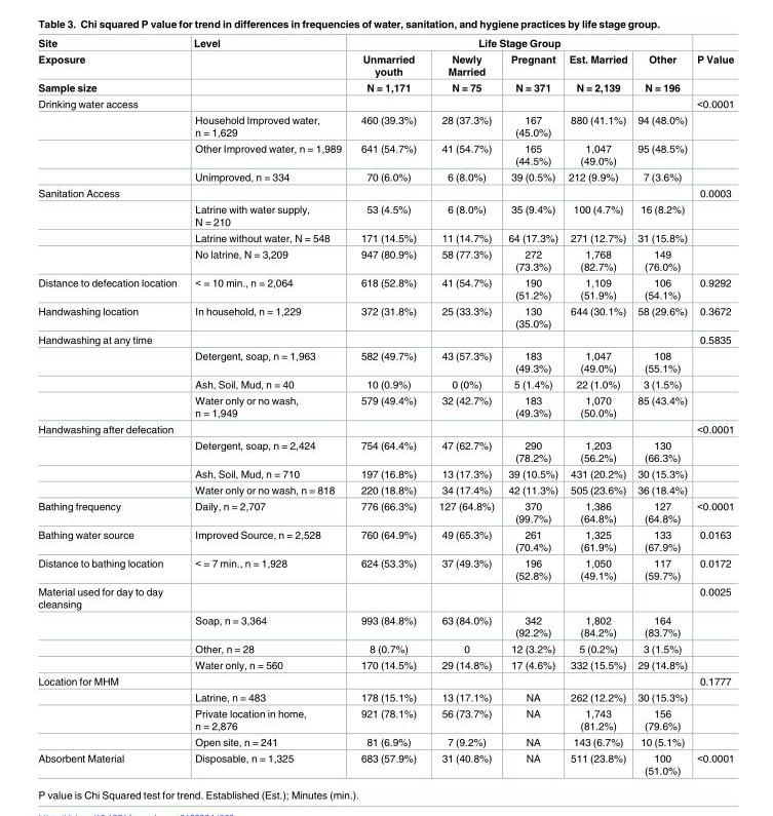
<table><thead><tr><td rowspan="3">Site Exposure Sample size</td><td rowspan="3">Level</td><td colspan="5">Life Stage Group</td><td rowspan="3">P Value</td></tr><tr><td rowspan="2">Unmarried youth N = 1,171</td><td rowspan="2">Newly Married N = 75</td><td rowspan="2">Pregnant N = 371</td><td rowspan="2">Est. Married N = 2,139</td><td rowspan="2">Other N = 196</td></tr><tr></tr></thead><tbody><tr><td rowspan="4">Drinking water access</td><td></td><td></td><td></td><td></td><td></td><td></td><td>&lt;0.0001</td></tr><tr><td>Household Improved water, n = 1,629</td><td>460 (39.3%)</td><td>28 (37.3%)</td><td>167 (45.0%)</td><td>880 (41.1%)</td><td>94 (48.0%)</td><td></td></tr><tr><td>Other Improved water, n = 1,989</td><td>641 (54.7%)</td><td>41 (54.7%)</td><td>165 (44.5%)</td><td>1,047 (49.0%)</td><td>95 (48.5%)</td><td></td></tr><tr><td>Unimproved, n = 334</td><td>70 (6.0%)</td><td>6 (8.0%)</td><td>39 (0.5%)</td><td>212 (9.9%)</td><td>7 (3.6%)</td><td></td></tr><tr><td rowspan="4">Sanitation Access</td><td></td><td></td><td></td><td></td><td></td><td></td><td>0.0003</td></tr><tr><td>Latrine with water supply, N = 210</td><td>53 (4.5%)</td><td>6 (8.0%)</td><td>35 (9.4%)</td><td>100 (4.7%)</td><td>16 (8.2%)</td><td></td></tr><tr><td>Latrine without water, N = 548</td><td>171 (14.5%)</td><td>11 (14.7%)</td><td>64 (17.3%)</td><td>271 (12.7%)</td><td>31 (15.8%)</td><td></td></tr><tr><td>No latrine, N = 3,209</td><td>947 (80.9%)</td><td>58 (77.3%)</td><td>272 (73.3%)</td><td>1,768 (82.7%)</td><td>149 (76.0%)</td><td></td></tr><tr><td>Distance to defecation location</td><td>&lt; = 10 min., n = 2,064</td><td>618 (52.8%)</td><td>41 (54.7%)</td><td>190 (51.2%)</td><td>1,109 (51.9%)</td><td>106 (54.1%)</td><td>0.9292</td></tr><tr><td>Handwashing location</td><td>In household, n = 1,229</td><td>372 (31.8%)</td><td>25 (33.3%)</td><td>130 (35.0%)</td><td>644 (30.1%)</td><td>58 (29.6%)</td><td>0.3672</td></tr><tr><td rowspan="4">Handwashing at any time</td><td></td><td></td><td></td><td></td><td></td><td></td><td>0.5835</td></tr><tr><td>Detergent, soap, n = 1,963</td><td>582 (49.7%)</td><td>43 (57.3%)</td><td>183 (49.3%)</td><td>1,047 (49.0%)</td><td>108 (55.1%)</td><td></td></tr><tr><td>Ash, Soil, Mud, n = 40</td><td>10 (0.9%)</td><td>0 (0%)</td><td>5 (1.4%)</td><td>22 (1.0%)</td><td>3 (1.5%)</td><td></td></tr><tr><td>Water only or no wash, n = 1,949</td><td>579 (49.4%)</td><td>32 (42.7%)</td><td>183 (49.3%)</td><td>1,070 (50.0%)</td><td>85 (43.4%)</td><td></td></tr><tr><td rowspan="4">Handwashing after defecation</td><td></td><td></td><td></td><td></td><td></td><td></td><td>&lt;0.0001</td></tr><tr><td>Detergent, soap, n = 2,424</td><td>754 (64.4%)</td><td>47 (62.7%)</td><td>290 (78.2%)</td><td>1,203 (56.2%)</td><td>130 (66.3%)</td><td></td></tr><tr><td>Ash, Soil, Mud, n = 710</td><td>197 (16.8%)</td><td>13 (17.3%)</td><td>39 (10.5%)</td><td>431 (20.2%)</td><td>30 (15.3%)</td><td></td></tr><tr><td>Water only or no wash, n = 818</td><td>220 (18.8%)</td><td>34 (17.4%)</td><td>42 (11.3%)</td><td>505 (23.6%)</td><td>36 (18.4%)</td><td></td></tr><tr><td>Bathing frequency</td><td>Daily, n = 2,707</td><td>776 (66.3%)</td><td>127 (64.8%)</td><td>370 (99.7%)</td><td>1,386 (64.8%)</td><td>127 (64.8%)</td><td>&lt;0.0001</td></tr><tr><td>Bathing water source</td><td>Improved Source, n = 2,528</td><td>760 (64.9%)</td><td>49 (65.3%)</td><td>261 (70.4%)</td><td>1,325 (61.9%)</td><td>133 (67.9%)</td><td>0.0163</td></tr><tr><td>Distance to bathing location</td><td>&lt; = 7 min., n = 1,928</td><td>624 (53.3%)</td><td>37 (49.3%)</td><td>196 (52.8%)</td><td>1,050 (49.1%)</td><td>117 (59.7%)</td><td>0.0172</td></tr><tr><td rowspan="4">Material used for day to day cleansing</td><td></td><td></td><td></td><td></td><td></td><td></td><td>0.0025</td></tr><tr><td>Soap, n = 3,364</td><td>993 (84.8%)</td><td>63 (84.0%)</td><td>342 (92.2%)</td><td>1,802 (84.2%)</td><td>164 (83.7%)</td><td></td></tr><tr><td>Other, n = 28</td><td>8 (0.7%)</td><td>0</td><td>12 (3.2%)</td><td>5 (0.2%)</td><td>3 (1.5%)</td><td></td></tr><tr><td>Water only, n = 560</td><td>170 (14.5%)</td><td>29 (14.8%)</td><td>17 (4.6%)</td><td>332 (15.5%)</td><td>29 (14.8%)</td><td></td></tr><tr><td rowspan="4">Location for MHM</td><td></td><td></td><td></td><td></td><td></td><td></td><td>0.1777</td></tr><tr><td>Latrine, n = 483</td><td>178 (15.1%)</td><td>13 (17.1%)</td><td>NA</td><td>262 (12.2%)</td><td>30 (15.3%)</td><td></td></tr><tr><td>Private location in home, n = 2,876</td><td>921 (78.1%)</td><td>56 (73.7%)</td><td>NA</td><td>1,743 (81.2%)</td><td>156 (79.6%)</td><td></td></tr><tr><td>Open site, n = 241</td><td>81 (6.9%)</td><td>7 (9.2%)</td><td>NA</td><td>143 (6.7%)</td><td>10 (5.1%)</td><td></td></tr><tr><td>Absorbent Material</td><td>Disposable, n = 1,325</td><td>683 (57.9%)</td><td>31 (40.8%)</td><td>NA</td><td>511 (23.8%)</td><td>100 (51.0%)</td><td>&lt;0.0001</td></tr></tbody></table>